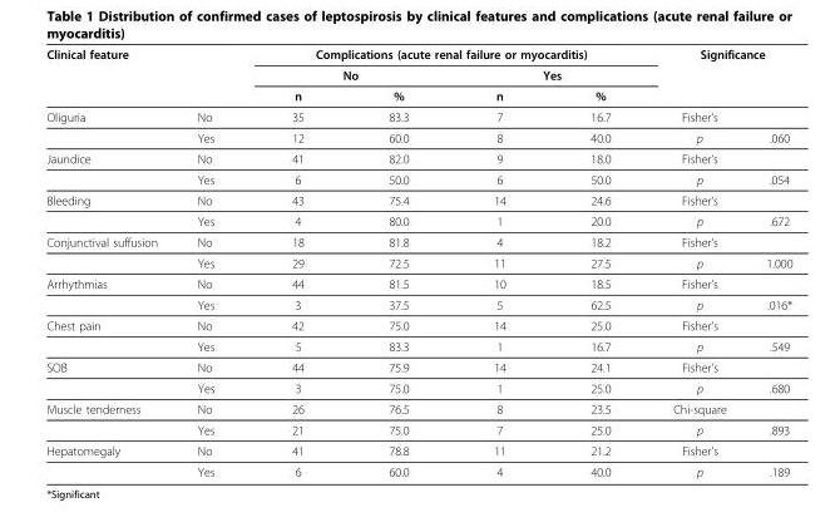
<table><thead><tr><td colspan="2">Clinical feature</td><td colspan="4">Complications (acute renal failure or myocarditis)</td><td colspan="2">Significance</td></tr><tr><td rowspan="2"></td><td rowspan="2"></td><td colspan="2">No</td><td colspan="2">Yes</td><td rowspan="2"></td><td rowspan="2"></td></tr><tr><td>n</td><td>%</td><td>n</td><td>%</td></tr></thead><tbody><tr><td rowspan="2">Oliguria</td><td>No</td><td>35</td><td>83.3</td><td>7</td><td>16.7</td><td>Fisher’s</td><td></td></tr><tr><td>Yes</td><td>12</td><td>60.0</td><td>8</td><td>40.0</td><td>p</td><td>.060</td></tr><tr><td rowspan="2">Jaundice</td><td>No</td><td>41</td><td>82.0</td><td>9</td><td>18.0</td><td>Fisher’s</td><td></td></tr><tr><td>Yes</td><td>6</td><td>50.0</td><td>6</td><td>50.0</td><td>p</td><td>.054</td></tr><tr><td rowspan="2">Bleeding</td><td>No</td><td>43</td><td>75.4</td><td>14</td><td>24.6</td><td>Fisher’s</td><td></td></tr><tr><td>Yes</td><td>4</td><td>80.0</td><td>1</td><td>20.0</td><td>p</td><td>.672</td></tr><tr><td rowspan="2">Conjunctival suffusion</td><td>No</td><td>18</td><td>81.8</td><td>4</td><td>18.2</td><td>Fisher’s</td><td></td></tr><tr><td>Yes</td><td>29</td><td>72.5</td><td>11</td><td>27.5</td><td>p</td><td>1.000</td></tr><tr><td rowspan="2">Arrhythmias</td><td>No</td><td>44</td><td>81.5</td><td>10</td><td>18.5</td><td>Fisher’s</td><td></td></tr><tr><td>Yes</td><td>3</td><td>37.5</td><td>5</td><td>62.5</td><td>p</td><td>.016*</td></tr><tr><td rowspan="2">Chest pain</td><td>No</td><td>42</td><td>75.0</td><td>14</td><td>25.0</td><td>Fisher’s</td><td></td></tr><tr><td>Yes</td><td>5</td><td>83.3</td><td>1</td><td>16.7</td><td>p</td><td>.549</td></tr><tr><td rowspan="2">SOB</td><td>No</td><td>44</td><td>75.9</td><td>14</td><td>24.1</td><td>Fisher’s</td><td></td></tr><tr><td>Yes</td><td>3</td><td>75.0</td><td>1</td><td>25.0</td><td>p</td><td>.680</td></tr><tr><td rowspan="2">Muscle tenderness</td><td>No</td><td>26</td><td>76.5</td><td>8</td><td>23.5</td><td>Chi-square</td><td></td></tr><tr><td>Yes</td><td>21</td><td>75.0</td><td>7</td><td>25.0</td><td>p</td><td>.893</td></tr><tr><td rowspan="2">Hepatomegaly</td><td>No</td><td>41</td><td>78.8</td><td>11</td><td>21.2</td><td>Fisher’s</td><td></td></tr><tr><td>Yes</td><td>6</td><td>60.0</td><td>4</td><td>40.0</td><td>p</td><td>.189</td></tr></tbody></table>